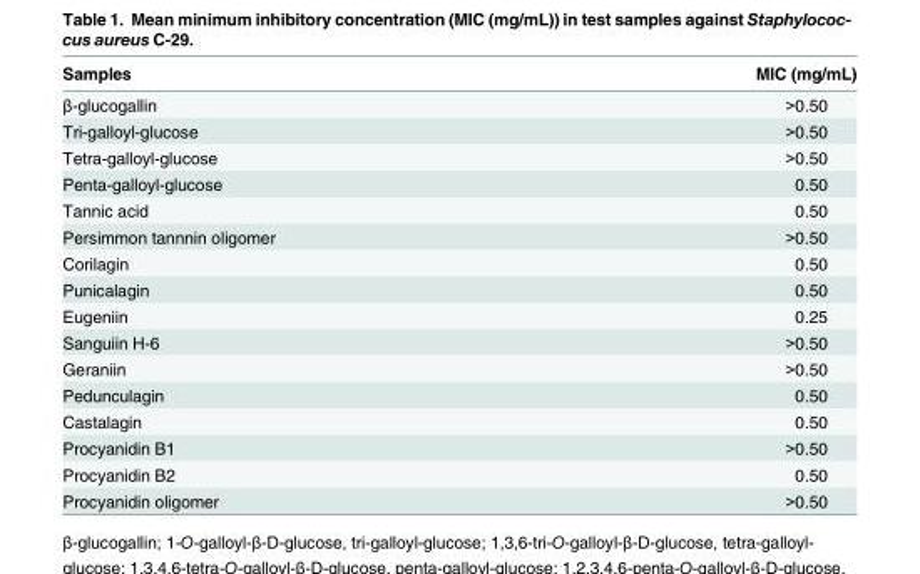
<table><thead><tr><td>Samples</td><td>MIC (mg/mL)</td></tr></thead><tbody><tr><td>β-glucogallin</td><td>&gt;0.50</td></tr><tr><td>Tri-galloyl-glucose</td><td>&gt;0.50</td></tr><tr><td>Tetra-galloyl-glucose</td><td>&gt;0.50</td></tr><tr><td>Penta-galloyl-glucose</td><td>0.50</td></tr><tr><td>Tannic acid</td><td>0.50</td></tr><tr><td>Persimmon tannnin oligomer</td><td>&gt;0.50</td></tr><tr><td>Corilagin</td><td>0.50</td></tr><tr><td>Punicalagin</td><td>0.50</td></tr><tr><td>Eugeniin</td><td>0.25</td></tr><tr><td>Sanguiin H-6</td><td>&gt;0.50</td></tr><tr><td>Geraniin</td><td>&gt;0.50</td></tr><tr><td>Pedunculagin</td><td>0.50</td></tr><tr><td>Castalagin</td><td>0.50</td></tr><tr><td>Procyanidin B1</td><td>&gt;0.50</td></tr><tr><td>Procyanidin B2</td><td>0.50</td></tr><tr><td>Procyanidin oligomer</td><td>&gt;0.50</td></tr></tbody></table>